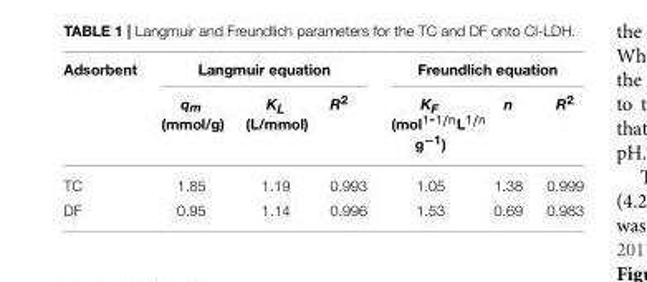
<table><thead><tr><td rowspan="2">Adsorbent</td><td colspan="3">Langmuir equation</td><td colspan="3">Freundlich equation</td></tr><tr><td>qm (mmol/g)</td><td>KL (L/mmol)</td><td>R<sup>2</sup></td><td>KF (mol1-1/nL1/n g−1)</td><td>n</td><td>R<sup>2</sup></td></tr></thead><tbody><tr><td>TC</td><td>1.85</td><td>1.19</td><td>0.993</td><td>1.05</td><td>1.38</td><td>0.999</td></tr><tr><td>DF</td><td>0.95</td><td>1.14</td><td>0.996</td><td>1.53</td><td>0.69</td><td>0.983</td></tr></tbody></table>